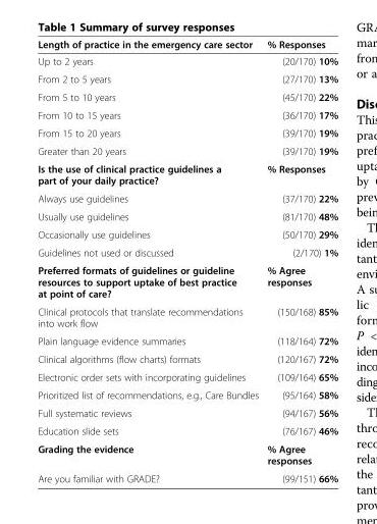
<table><thead><tr><td>Length of practice in the emergency care sector</td><td>% Responses</td></tr></thead><tbody><tr><td>Up to 2 years</td><td>(20/170) 10%</td></tr><tr><td>From 2 to 5 years</td><td>(27/170) 13%</td></tr><tr><td>From 5 to 10 years</td><td>(45/170) 22%</td></tr><tr><td>From 10 to 15 years</td><td>(36/170) 17%</td></tr><tr><td>From 15 to 20 years</td><td>(39/170) 19%</td></tr><tr><td>Greater than 20 years</td><td>(39/170) 19%</td></tr><tr><td>Is the use of clinical practice guidelines a part of your daily practice?</td><td>% Responses</td></tr><tr><td>Always use guidelines</td><td>(37/170) 22%</td></tr><tr><td>Usually use guidelines</td><td>(81/170) 48%</td></tr><tr><td>Occasionally use guidelines</td><td>(50/170) 29%</td></tr><tr><td>Guidelines not used or discussed</td><td>(2/170) 1%</td></tr><tr><td>Preferred formats of guidelines or guideline resources to support uptake of best practice at point of care?</td><td>% Agree responses</td></tr><tr><td>Clinical protocols that translate recommendations into work flow</td><td>(150/168) 85%</td></tr><tr><td>Plain language evidence summaries</td><td>(118/164) 72%</td></tr><tr><td>Clinical algorithms (flow charts) formats</td><td>(120/167) 72%</td></tr><tr><td>Electronic order sets with incorporating guidelines</td><td>(109/164) 65%</td></tr><tr><td>Prioritized list of recommendations, e.g., Care Bundles</td><td>(95/164) 58%</td></tr><tr><td>Full systematic reviews</td><td>(94/167) 56%</td></tr><tr><td>Education slide sets</td><td>(76/167) 46%</td></tr><tr><td>Grading the evidence</td><td>% Agree responses</td></tr><tr><td>Are you familiar with GRADE?</td><td>(99/151) 66%</td></tr></tbody></table>